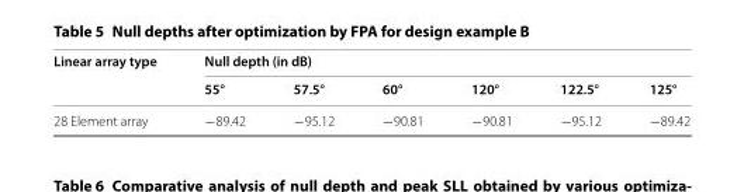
<table><thead><tr><td rowspan="2">Linear array type</td><td colspan="6">Null depth (in dB)</td></tr><tr><td>55°</td><td>57.5°</td><td>60°</td><td>120°</td><td>122.5°</td><td>125°</td></tr></thead><tbody><tr><td>28 Element array</td><td>−89.42</td><td>−95.12</td><td>−90.81</td><td>−90.81</td><td>−95.12</td><td>−89.42</td></tr></tbody></table>